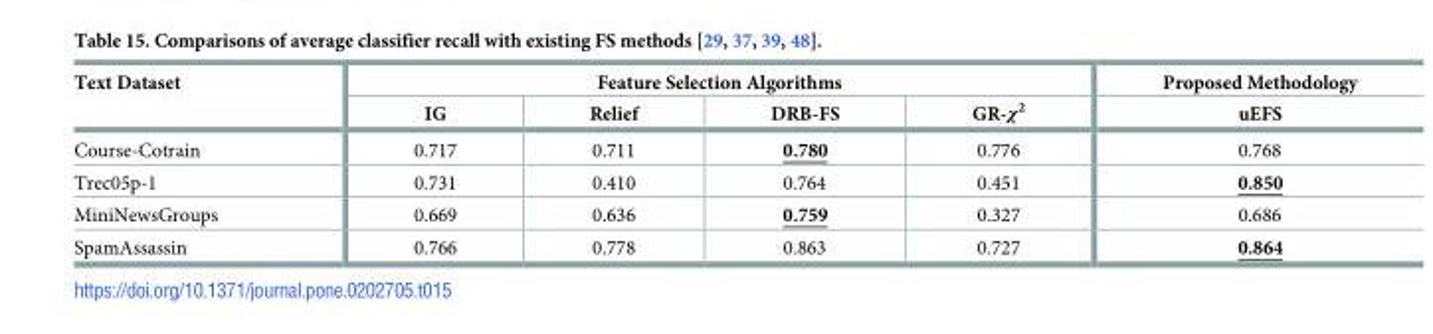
<table><thead><tr><td rowspan="2">Text Dataset</td><td colspan="4">Feature Selection Algorithms</td><td rowspan="2">Proposed Methodology uEFS</td></tr><tr><td>IG</td><td>Relief</td><td>DRB-FS</td><td>GR-χ<sup>2</sup></td></tr></thead><tbody><tr><td>Course-Cotrain</td><td>0.717</td><td>0.711</td><td>0.780</td><td>0.776</td><td>0.768</td></tr><tr><td>Trec05p-1</td><td>0.731</td><td>0.410</td><td>0.764</td><td>0.451</td><td>0.850</td></tr><tr><td>MiniNewsGroups</td><td>0.669</td><td>0.636</td><td>0.759</td><td>0.327</td><td>0.686</td></tr><tr><td>SpamAssassin</td><td>0.766</td><td>0.778</td><td>0.863</td><td>0.727</td><td>0.864</td></tr></tbody></table>